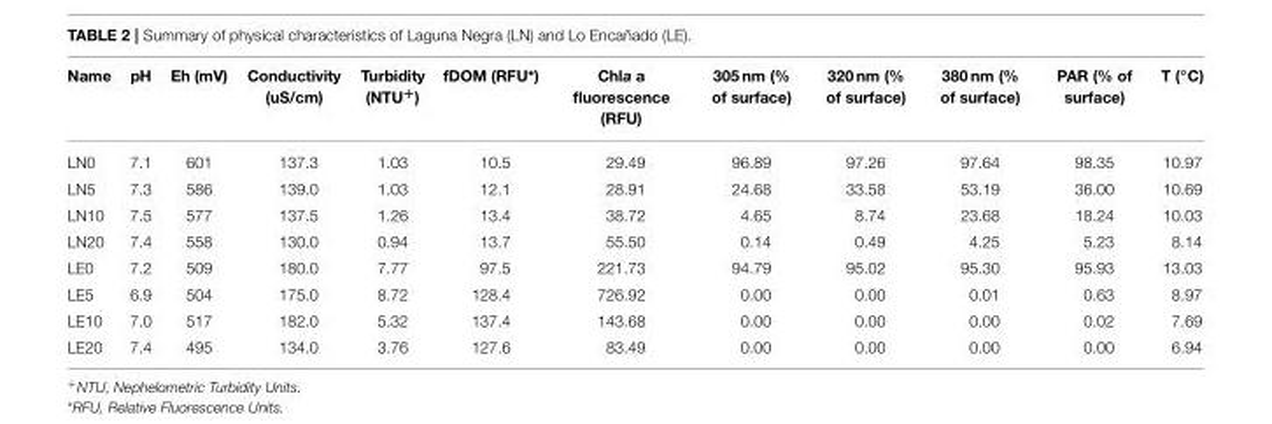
<table><thead><tr><td>Name</td><td>pH</td><td>Eh (mV)</td><td>Conductivity (uS/cm)</td><td>Turbidity (NTU<sup>+</sup>)</td><td>fDOM (RFU*)</td><td>Chla a fluorescence (RFU)</td><td>305 nm (% of surface)</td><td>320 nm (% of surface)</td><td>380 nm (% of surface)</td><td>PAR (% of surface)</td><td>T (◦C)</td></tr></thead><tbody><tr><td>LN0</td><td>7.1</td><td>601</td><td>137.3</td><td>1.03</td><td>10.5</td><td>29.49</td><td>96.89</td><td>97.26</td><td>97.64</td><td>98.35</td><td>10.97</td></tr><tr><td>LN5</td><td>7.3</td><td>586</td><td>139.0</td><td>1.03</td><td>12.1</td><td>28.91</td><td>24.68</td><td>33.58</td><td>53.19</td><td>36.00</td><td>10.69</td></tr><tr><td>LN10</td><td>7.5</td><td>577</td><td>137.5</td><td>1.26</td><td>13.4</td><td>38.72</td><td>4.65</td><td>8.74</td><td>23.68</td><td>18.24</td><td>10.03</td></tr><tr><td>LN20</td><td>7.4</td><td>558</td><td>130.0</td><td>0.94</td><td>13.7</td><td>55.50</td><td>0.14</td><td>0.49</td><td>4.25</td><td>5.23</td><td>8.14</td></tr><tr><td>LE0</td><td>7.2</td><td>509</td><td>180.0</td><td>7.77</td><td>97.5</td><td>221.73</td><td>94.79</td><td>95.02</td><td>95.30</td><td>95.93</td><td>13.03</td></tr><tr><td>LE5</td><td>6.9</td><td>504</td><td>175.0</td><td>8.72</td><td>128.4</td><td>726.92</td><td>0.00</td><td>0.00</td><td>0.01</td><td>0.63</td><td>8.97</td></tr><tr><td>LE10</td><td>7.0</td><td>517</td><td>182.0</td><td>5.32</td><td>137.4</td><td>143.68</td><td>0.00</td><td>0.00</td><td>0.00</td><td>0.02</td><td>7.69</td></tr><tr><td>LE20</td><td>7.4</td><td>495</td><td>134.0</td><td>3.76</td><td>127.6</td><td>83.49</td><td>0.00</td><td>0.00</td><td>0.00</td><td>0.00</td><td>6.94</td></tr></tbody></table>